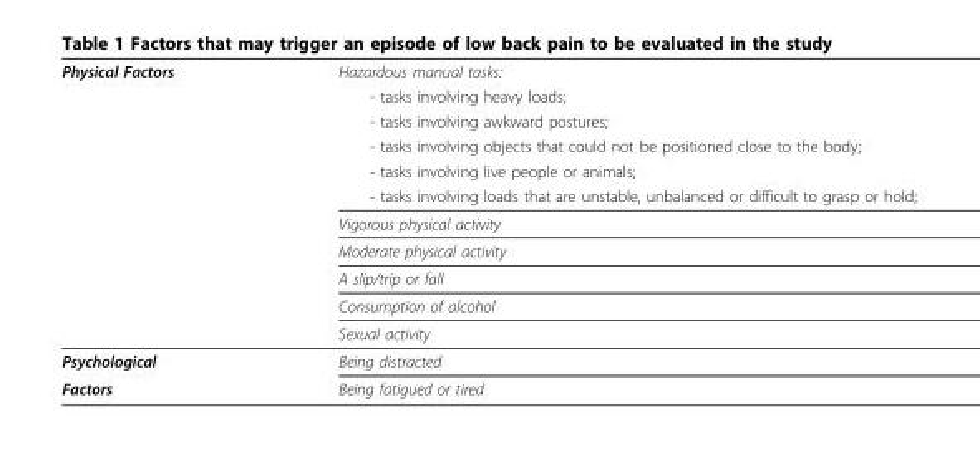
<table><thead><tr><td rowspan="11">Physical Factors</td><td rowspan="11">Hazardous manual tasks: - tasks involving heavy loads; - tasks involving awkward postures; - tasks involving objects that could not be positioned close to the body; - tasks involving live people or animals; - tasks involving loads that are unstable, unbalanced or difficult to grasp or hold; Vigorous physical activity Moderate physical activity A slip/trip or fall Consumption of alcohol Sexual activity</td></tr><tr></tr><tr></tr><tr></tr><tr></tr><tr></tr><tr></tr><tr></tr><tr></tr><tr></tr><tr></tr></thead><tbody><tr><td>Psychological</td><td>Being distracted</td></tr><tr><td>Factors</td><td>Being fatigued or tired</td></tr></tbody></table>